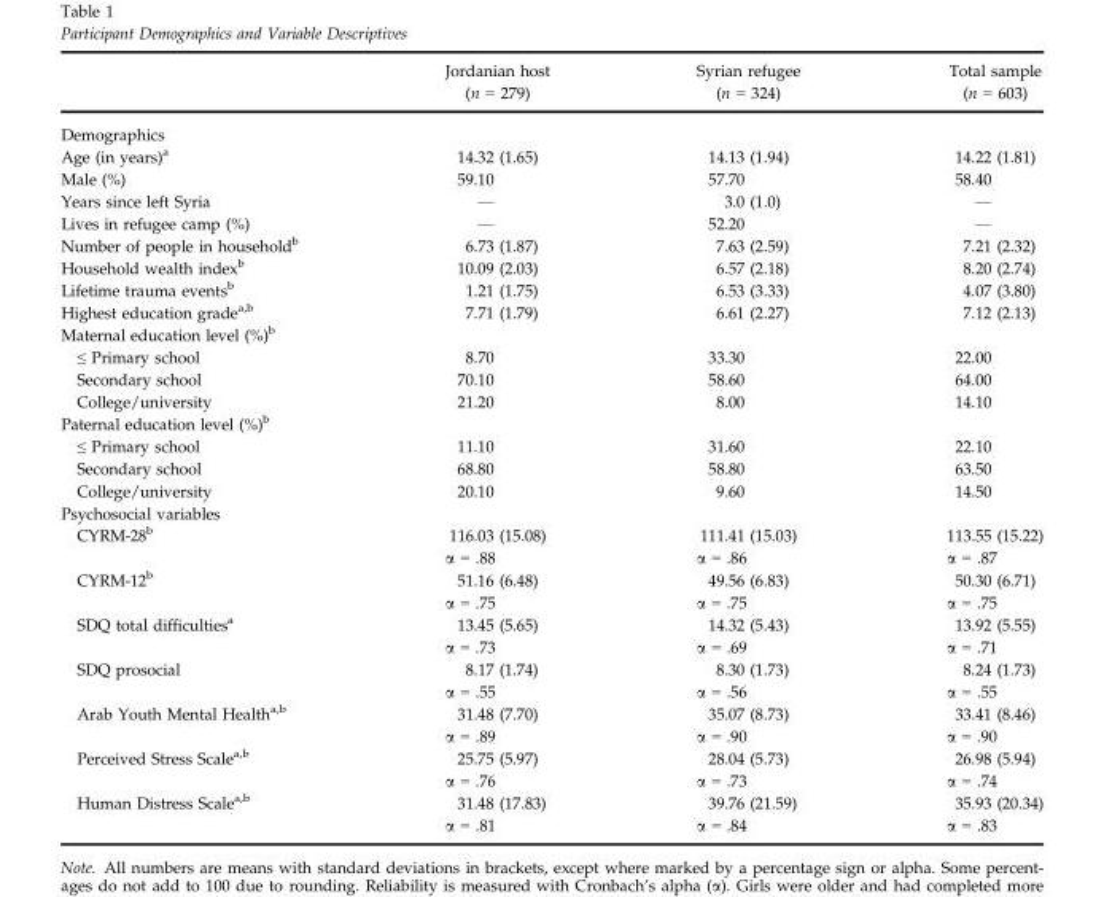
<table><thead><tr><td></td><td>Jordanian host (n = 279)</td><td>Syrian refugee (n = 324)</td><td>Total sample (n = 603)</td></tr></thead><tbody><tr><td colspan="4">Demographics</td></tr><tr><td>Age (in years)<sup>a</sup></td><td>14.32 (1.65)</td><td>14.13 (1.94)</td><td>14.22 (1.81)</td></tr><tr><td>Male (%)</td><td>59.10</td><td>57.70</td><td>58.40</td></tr><tr><td>Years since left Syria</td><td>—</td><td>3.0 (1.0)</td><td>—</td></tr><tr><td>Lives in refugee camp (%)</td><td>—</td><td>52.20</td><td>—</td></tr><tr><td>Number of people in household<sup>b</sup></td><td>6.73 (1.87)</td><td>7.63 (2.59)</td><td>7.21 (2.32)</td></tr><tr><td>Household wealth index<sup>b</sup></td><td>10.09 (2.03)</td><td>6.57 (2.18)</td><td>8.20 (2.74)</td></tr><tr><td>Lifetime trauma events<sup>b</sup></td><td>1.21 (1.75)</td><td>6.53 (3.33)</td><td>4.07 (3.80)</td></tr><tr><td>Highest education grade<sup>a,</sup>b</td><td>7.71 (1.79)</td><td>6.61 (2.27)</td><td>7.12 (2.13)</td></tr><tr><td colspan="4">Maternal education level (%)<sup>b</sup></td></tr><tr><td>≤ Primary school</td><td>8.70</td><td>33.30</td><td>22.00</td></tr><tr><td>Secondary school</td><td>70.10</td><td>58.60</td><td>64.00</td></tr><tr><td>College/university</td><td>21.20</td><td>8.00</td><td>14.10</td></tr><tr><td colspan="4">Paternal education level (%)<sup>b</sup></td></tr><tr><td>≤ Primary school</td><td>11.10</td><td>31.60</td><td>22.10</td></tr><tr><td>Secondary school</td><td>68.80</td><td>58.80</td><td>63.50</td></tr><tr><td>College/university</td><td>20.10</td><td>9.60</td><td>14.50</td></tr><tr><td colspan="4">Psychosocial variables</td></tr><tr><td>CYRM-28<sup>b</sup></td><td>116.03 (15.08) α = .88</td><td>111.41 (15.03) α = .86</td><td>113.55 (15.22) α = .87</td></tr><tr><td>CYRM-12<sup>b</sup></td><td>51.16 (6.48) α = .75</td><td>49.56 (6.83) α = .75</td><td>50.30 (6.71) α = .75</td></tr><tr><td>SDQ total difficulties<sup>a</sup></td><td>13.45 (5.65) α = .73</td><td>14.32 (5.43) α = .69</td><td>13.92 (5.55) α = .71</td></tr><tr><td>SDQ prosocial</td><td>8.17 (1.74) α = .55</td><td>8.30 (1.73) α = .56</td><td>8.24 (1.73) α = .55</td></tr><tr><td>Arab Youth Mental Health<sup>a,</sup>b</td><td>31.48 (7.70) α = .89</td><td>35.07 (8.73) α = .90</td><td>33.41 (8.46) α = .90</td></tr><tr><td>Perceived Stress Scale<sup>a,</sup>b</td><td>25.75 (5.97) α = .76</td><td>28.04 (5.73) α = .73</td><td>26.98 (5.94) α = .74</td></tr><tr><td>Human Distress Scale<sup>a,</sup>b</td><td>31.48 (17.83) α = .81</td><td>39.76 (21.59) α = .84</td><td>35.93 (20.34) α = .83</td></tr></tbody></table>